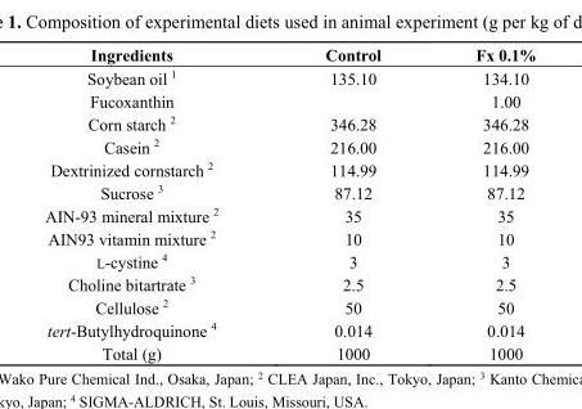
<table><thead><tr><td>Ingredients</td><td>Control</td><td>Fx 0.1%</td></tr></thead><tbody><tr><td>Soybean oil <sup>1</sup></td><td>135.10</td><td>134.10</td></tr><tr><td>Fucoxanthin</td><td></td><td>1.00</td></tr><tr><td>Corn starch <sup>2</sup></td><td>346.28</td><td>346.28</td></tr><tr><td>Casein <sup>2</sup></td><td>216.00</td><td>216.00</td></tr><tr><td>Dextrinized cornstarch <sup>2</sup></td><td>114.99</td><td>114.99</td></tr><tr><td>Sucrose <sup>3</sup></td><td>87.12</td><td>87.12</td></tr><tr><td>AIN-93 mineral mixture <sup>2</sup></td><td>35</td><td>35</td></tr><tr><td>AIN93 vitamin mixture <sup>2</sup></td><td>10</td><td>10</td></tr><tr><td>L-cystine <sup>4</sup></td><td>3</td><td>3</td></tr><tr><td>Choline bitartrate <sup>3</sup></td><td>2.5</td><td>2.5</td></tr><tr><td>Cellulose <sup>2</sup></td><td>50</td><td>50</td></tr><tr><td>tert-Butylhydroquinone <sup>4</sup></td><td>0.014</td><td>0.014</td></tr><tr><td>Total (g)</td><td>1000</td><td>1000</td></tr></tbody></table>